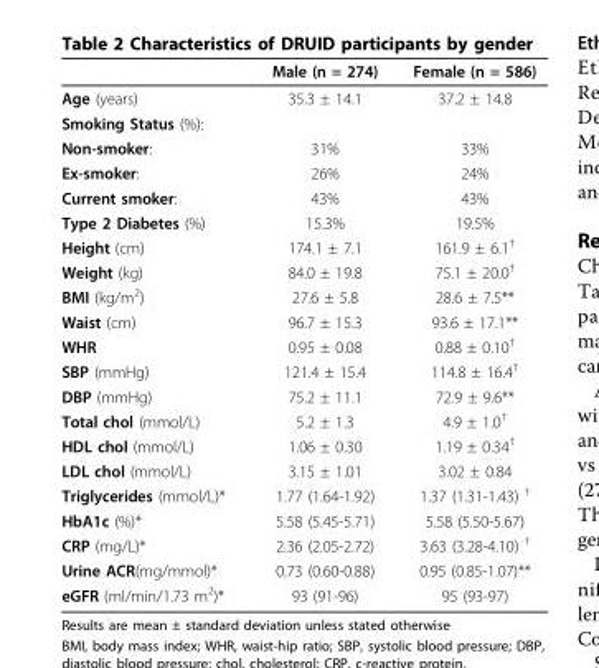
<table><thead><tr><td></td><td>Male (n = 274)</td><td>Female (n = 586)</td></tr></thead><tbody><tr><td>Age (years)</td><td>35.3 ± 14.1</td><td>37.2 ± 14.8</td></tr><tr><td colspan="3">Smoking Status (%):</td></tr><tr><td>Non-smoker:</td><td>31%</td><td>33%</td></tr><tr><td>Ex-smoker:</td><td>26%</td><td>24%</td></tr><tr><td>Current smoker:</td><td>43%</td><td>43%</td></tr><tr><td>Type 2 Diabetes (%)</td><td>15.3%</td><td>19.5%</td></tr><tr><td>Height (cm)</td><td>174.1 ± 7.1</td><td>161.9 ± 6.1<sup>†</sup></td></tr><tr><td>Weight (kg)</td><td>84.0 ± 19.8</td><td>75.1 ± 20.0<sup>†</sup></td></tr><tr><td>BMI (kg/m<sup>2</sup>)</td><td>27.6 ± 5.8</td><td>28.6 ± 7.5**</td></tr><tr><td>Waist (cm)</td><td>96.7 ± 15.3</td><td>93.6 ± 17.1**</td></tr><tr><td>WHR</td><td>0.95 ± 0.08</td><td>0.88 ± 0.10<sup>†</sup></td></tr><tr><td>SBP (mmHg)</td><td>121.4 ± 15.4</td><td>114.8 ± 16.4<sup>†</sup></td></tr><tr><td>DBP (mmHg)</td><td>75.2 ± 11.1</td><td>72.9 ± 9.6**</td></tr><tr><td>Total chol (mmol/L)</td><td>5.2 ± 1.3</td><td>4.9 ± 1.0<sup>†</sup></td></tr><tr><td>HDL chol (mmol/L)</td><td>1.06 ± 0.30</td><td>1.19 ± 0.34<sup>†</sup></td></tr><tr><td>LDL chol (mmol/L)</td><td>3.15 ± 1.01</td><td>3.02 ± 0.84</td></tr><tr><td>Triglycerides (mmol/L)*</td><td>1.77 (1.64-1.92)</td><td>1.37 (1.31-1.43) <sup>†</sup></td></tr><tr><td>HbA1c (%)*</td><td>5.58 (5.45-5.71)</td><td>5.58 (5.50-5.67)</td></tr><tr><td>CRP (mg/L)*</td><td>2.36 (2.05-2.72)</td><td>3.63 (3.28-4.10) <sup>†</sup></td></tr><tr><td>Urine ACR(mg/mmol)*</td><td>0.73 (0.60-0.88)</td><td>0.95 (0.85-1.07)**</td></tr><tr><td>eGFR (ml/min/1.73 m<sup>2</sup>)*</td><td>93 (91-96)</td><td>95 (93-97)</td></tr></tbody></table>